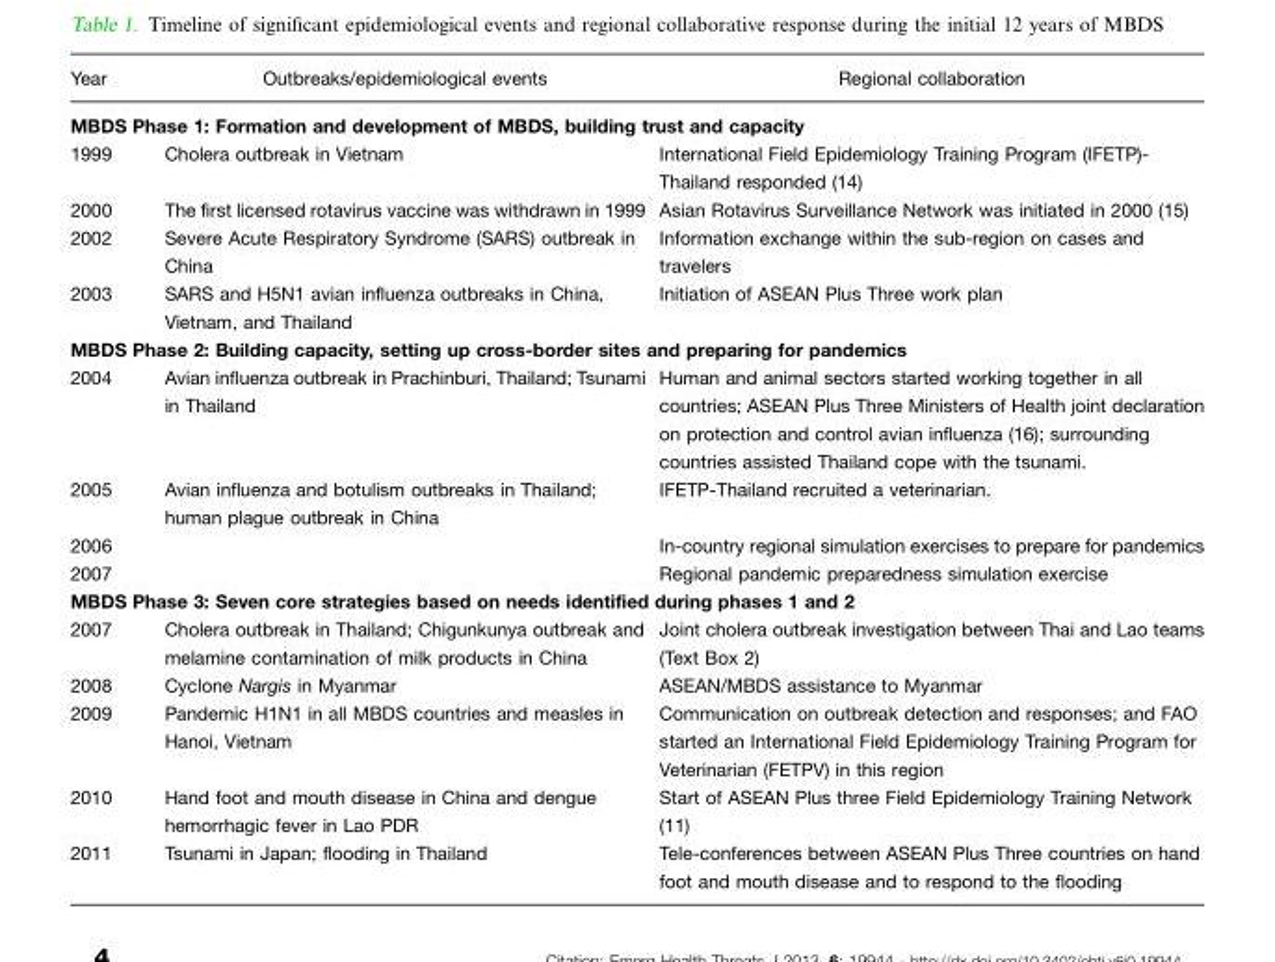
<table><thead><tr><td>Year</td><td>Outbreaks/epidemiological events</td><td>Regional collaboration</td></tr></thead><tbody><tr><td colspan="3">MBDS Phase 1: Formation and development of MBDS, building trust and capacity</td></tr><tr><td>1999</td><td>Cholera outbreak in Vietnam</td><td>International Field Epidemiology Training Program (IFETP)- Thailand responded (14)</td></tr><tr><td>2000</td><td>The first licensed rotavirus vaccine was withdrawn in 1999</td><td>Asian Rotavirus Surveillance Network was initiated in 2000 (15)</td></tr><tr><td>2002</td><td>Severe Acute Respiratory Syndrome (SARS) outbreak in China</td><td>Information exchange within the sub-region on cases and travelers</td></tr><tr><td>2003</td><td>SARS and H5N1 avian influenza outbreaks in China, Vietnam, and Thailand</td><td>Initiation of ASEAN Plus Three work plan</td></tr><tr><td colspan="3">MBDS Phase 2: Building capacity, setting up cross-border sites and preparing for pandemics</td></tr><tr><td>2004</td><td>Avian influenza outbreak in Prachinburi, Thailand; Tsunami in Thailand</td><td>Human and animal sectors started working together in all countries; ASEAN Plus Three Ministers of Health joint declaration on protection and control avian influenza (16); surrounding countries assisted Thailand cope with the tsunami.</td></tr><tr><td>2005</td><td>Avian influenza and botulism outbreaks in Thailand; human plague outbreak in China</td><td>IFETP-Thailand recruited a veterinarian.</td></tr><tr><td>2006</td><td></td><td>In-country regional simulation exercises to prepare for pandemics</td></tr><tr><td>2007</td><td></td><td>Regional pandemic preparedness simulation exercise</td></tr><tr><td colspan="3">MBDS Phase 3: Seven core strategies based on needs identified during phases 1 and 2</td></tr><tr><td>2007</td><td>Cholera outbreak in Thailand; Chigunkunya outbreak and melamine contamination of milk products in China</td><td>Joint cholera outbreak investigation between Thai and Lao teams (Text Box 2)</td></tr><tr><td>2008</td><td>Cyclone Nargis in Myanmar</td><td>ASEAN/MBDS assistance to Myanmar</td></tr><tr><td>2009</td><td>Pandemic H1N1 in all MBDS countries and measles in Hanoi, Vietnam</td><td>Communication on outbreak detection and responses; and FAO started an International Field Epidemiology Training Program for Veterinarian (FETPV) in this region</td></tr><tr><td>2010</td><td>Hand foot and mouth disease in China and dengue hemorrhagic fever in Lao PDR</td><td>Start of ASEAN Plus three Field Epidemiology Training Network (11)</td></tr><tr><td>2011</td><td>Tsunami in Japan; flooding in Thailand</td><td>Tele-conferences between ASEAN Plus Three countries on hand foot and mouth disease and to respond to the flooding</td></tr></tbody></table>